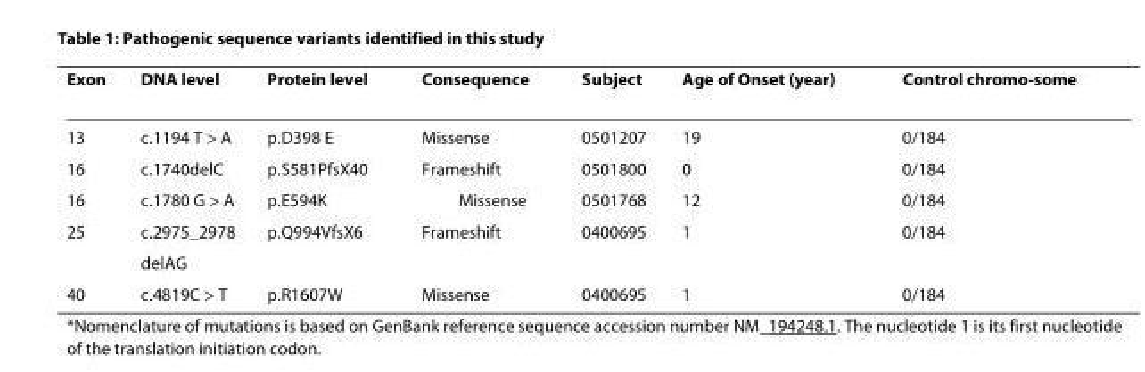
<table><thead><tr><td>Exon</td><td>DNA level</td><td>Protein level</td><td>Consequence</td><td>Subject</td><td>Age of Onset (year)</td><td>Control chromo-some</td></tr></thead><tbody><tr><td>13</td><td>c.1194 T &gt; A</td><td>p.D398 E</td><td>Missense</td><td>0501207</td><td>19</td><td>0/184</td></tr><tr><td>16</td><td>c.1740delC</td><td>p.S581PfsX40</td><td>Frameshift</td><td>0501800</td><td>0</td><td>0/184</td></tr><tr><td>16</td><td>c.1780 G &gt; A</td><td>p.E594K</td><td>Missense</td><td>0501768</td><td>12</td><td>0/184</td></tr><tr><td rowspan="2">25</td><td>c.2975_2978</td><td>p.Q994VfsX6</td><td>Frameshift</td><td>0400695</td><td>1</td><td>0/184</td></tr><tr><td>delAG</td><td></td><td></td><td></td><td></td><td></td></tr><tr><td>40</td><td>c.4819C &gt; T</td><td>p.R1607W</td><td>Missense</td><td>0400695</td><td>1</td><td>0/184</td></tr></tbody></table>